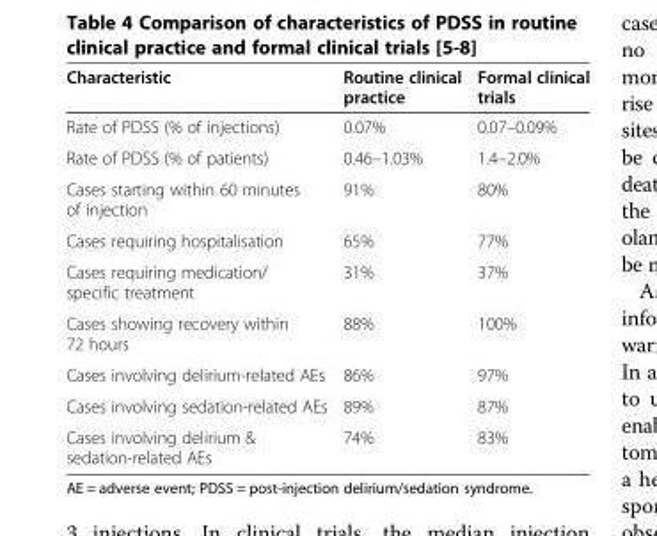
<table><thead><tr><td>Characteristic</td><td>Routine clinical practice</td><td>Formal clinical trials</td></tr></thead><tbody><tr><td>Rate of PDSS (% of injections)</td><td>0.07%</td><td>0.07–0.09%</td></tr><tr><td>Rate of PDSS (% of patients)</td><td>0.46–1.03%</td><td>1.4–2.0%</td></tr><tr><td>Cases starting within 60 minutes of injection</td><td>91%</td><td>80%</td></tr><tr><td>Cases requiring hospitalisation</td><td>65%</td><td>77%</td></tr><tr><td>Cases requiring medication/ specific treatment</td><td>31%</td><td>37%</td></tr><tr><td>Cases showing recovery within 72 hours</td><td>88%</td><td>100%</td></tr><tr><td>Cases involving delirium-related AEs</td><td>86%</td><td>97%</td></tr><tr><td>Cases involving sedation-related AEs</td><td>89%</td><td>87%</td></tr><tr><td>Cases involving delirium &amp; sedation-related AEs</td><td>74%</td><td>83%</td></tr></tbody></table>